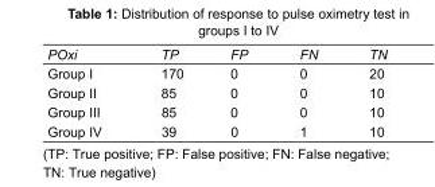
<table><tbody><tr><td>POxi</td><td>TP</td><td>FP</td><td>FN</td><td>TN</td></tr><tr><td>Group I</td><td>170</td><td>0</td><td>0</td><td>20</td></tr><tr><td>Group II</td><td>85</td><td>0</td><td>0</td><td>10</td></tr><tr><td>Group III</td><td>85</td><td>0</td><td>0</td><td>10</td></tr><tr><td>Group IV</td><td>39</td><td>0</td><td>1</td><td>10</td></tr></tbody></table>